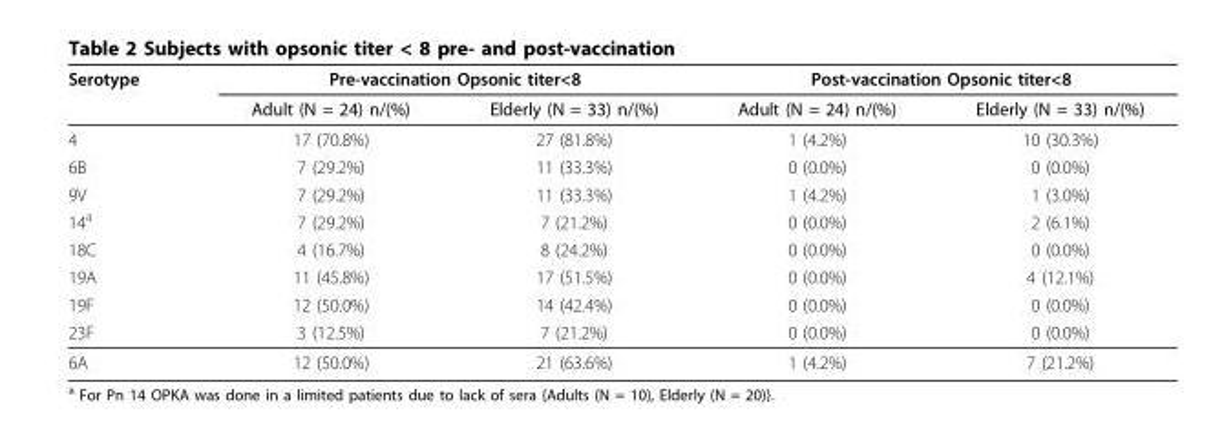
<table><thead><tr><td rowspan="2">Serotype</td><td colspan="2">Pre-vaccination Opsonic titer&lt;8</td><td colspan="2">Post-vaccination Opsonic titer&lt;8</td></tr><tr><td>Adult (N = 24) n/(%)</td><td>Elderly (N = 33) n/(%)</td><td>Adult (N = 24) n/(%)</td><td>Elderly (N = 33) n/(%)</td></tr></thead><tbody><tr><td>4</td><td>17 (70.8%)</td><td>27 (81.8%)</td><td>1 (4.2%)</td><td>10 (30.3%)</td></tr><tr><td>6B</td><td>7 (29.2%)</td><td>11 (33.3%)</td><td>0 (0.0%)</td><td>0 (0.0%)</td></tr><tr><td>9V</td><td>7 (29.2%)</td><td>11 (33.3%)</td><td>1 (4.2%)</td><td>1 (3.0%)</td></tr><tr><td>14<sup>a</sup></td><td>7 (29.2%)</td><td>7 (21.2%)</td><td>0 (0.0%)</td><td>2 (6.1%)</td></tr><tr><td>18C</td><td>4 (16.7%)</td><td>8 (24.2%)</td><td>0 (0.0%)</td><td>0 (0.0%)</td></tr><tr><td>19A</td><td>11 (45.8%)</td><td>17 (51.5%)</td><td>0 (0.0%)</td><td>4 (12.1%)</td></tr><tr><td>19F</td><td>12 (50.0%)</td><td>14 (42.4%)</td><td>0 (0.0%)</td><td>0 (0.0%)</td></tr><tr><td>23F</td><td>3 (12.5%)</td><td>7 (21.2%)</td><td>0 (0.0%)</td><td>0 (0.0%)</td></tr><tr><td>6A</td><td>12 (50.0%)</td><td>21 (63.6%)</td><td>1 (4.2%)</td><td>7 (21.2%)</td></tr></tbody></table>